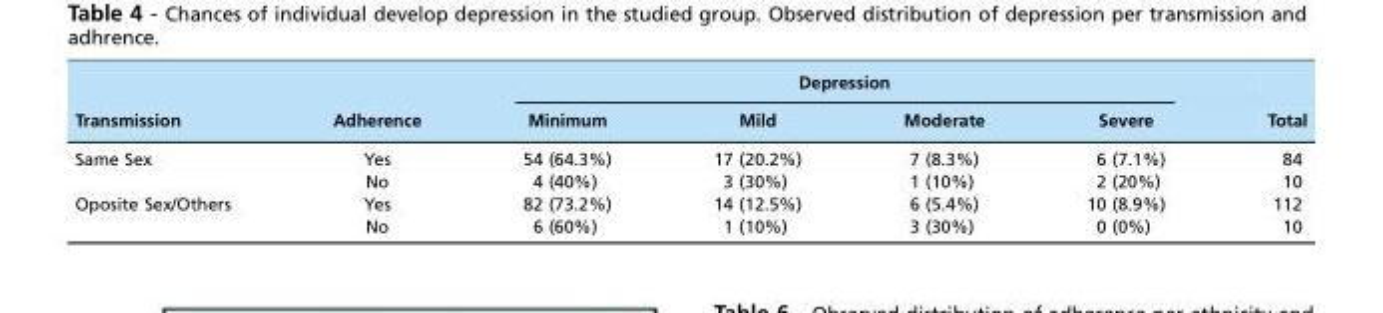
<table><thead><tr><td rowspan="2">Transmission</td><td rowspan="2">Adherence</td><td colspan="4">Depression</td><td rowspan="2">Total</td></tr><tr><td>Minimum</td><td>Mild</td><td>Moderate</td><td>Severe</td></tr></thead><tbody><tr><td rowspan="2">Same Sex</td><td>Yes</td><td>54 (64.3%)</td><td>17 (20.2%)</td><td>7 (8.3%)</td><td>6 (7.1%)</td><td>84</td></tr><tr><td>No</td><td>4 (40%)</td><td>3 (30%)</td><td>1 (10%)</td><td>2 (20%)</td><td>10</td></tr><tr><td rowspan="2">Oposite Sex/Others</td><td>Yes</td><td>82 (73.2%)</td><td>14 (12.5%)</td><td>6 (5.4%)</td><td>10 (8.9%)</td><td>112</td></tr><tr><td>No</td><td>6 (60%)</td><td>1 (10%)</td><td>3 (30%)</td><td>0 (0%)</td><td>10</td></tr></tbody></table>